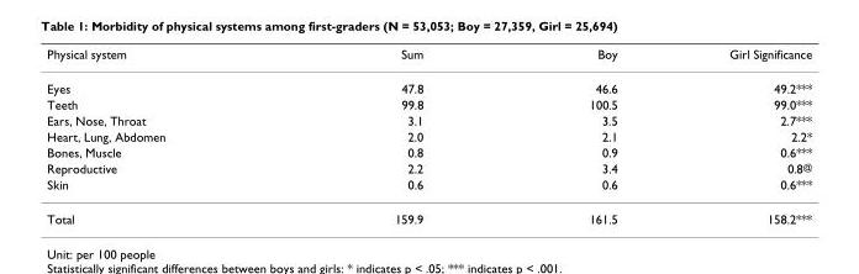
<table><thead><tr><td>Physical system</td><td>Sum</td><td>Boy</td><td>Girl Significance</td></tr></thead><tbody><tr><td>Eyes</td><td>47.8</td><td>46.6</td><td>49.2***</td></tr><tr><td>Teeth</td><td>99.8</td><td>100.5</td><td>99.0***</td></tr><tr><td>Ears, Nose, Throat</td><td>3.1</td><td>3.5</td><td>2.7***</td></tr><tr><td>Heart, Lung, Abdomen</td><td>2.0</td><td>2.1</td><td>2.2*</td></tr><tr><td>Bones, Muscle</td><td>0.8</td><td>0.9</td><td>0.6***</td></tr><tr><td>Reproductive</td><td>2.2</td><td>3.4</td><td>0.8<sup>@</sup></td></tr><tr><td>Skin</td><td>0.6</td><td>0.6</td><td>0.6***</td></tr><tr><td>Total</td><td>159.9</td><td>161.5</td><td>158.2***</td></tr></tbody></table>